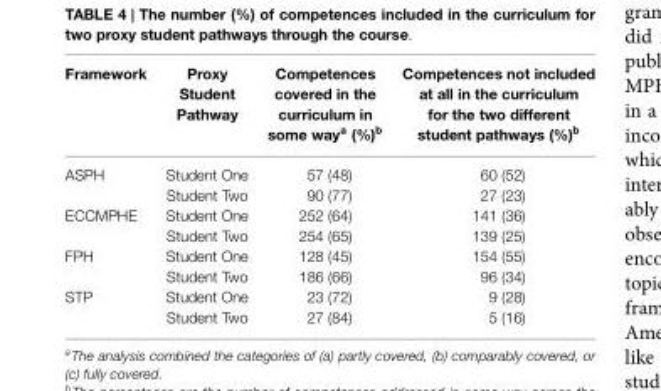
<table><thead><tr><td>Framework</td><td>Proxy Student Pathway</td><td>Competences covered in the curriculum in some way<sup>a</sup> (%)<sup>b</sup></td><td>Competences not included at all in the curriculum for the two different student pathways (%)<sup>b</sup></td></tr></thead><tbody><tr><td rowspan="2">ASPH</td><td>Student One</td><td>57 (48)</td><td>60 (52)</td></tr><tr><td>Student Two</td><td>90 (77)</td><td>27 (23)</td></tr><tr><td rowspan="2">ECCMPHE</td><td>Student One</td><td>252 (64)</td><td>141 (36)</td></tr><tr><td>Student Two</td><td>254 (65)</td><td>139 (25)</td></tr><tr><td rowspan="2">FPH</td><td>Student One</td><td>128 (45)</td><td>154 (55)</td></tr><tr><td>Student Two</td><td>186 (66)</td><td>96 (34)</td></tr><tr><td rowspan="2">STP</td><td>Student One</td><td>23 (72)</td><td>9 (28)</td></tr><tr><td>Student Two</td><td>27 (84)</td><td>5 (16)</td></tr></tbody></table>